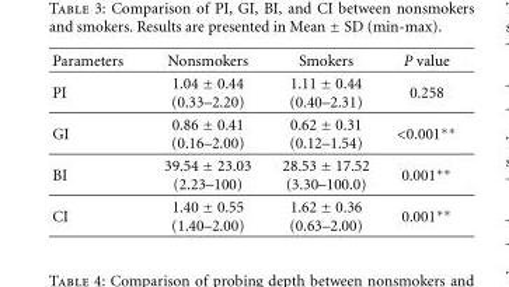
<table><thead><tr><td>Parameters</td><td>Nonsmokers</td><td>Smokers</td><td>P value</td></tr></thead><tbody><tr><td>PI</td><td>1.04 ± 0.44 (0.33–2.20)</td><td>1.11 ± 0.44 (0.40–2.31)</td><td>0.258</td></tr><tr><td>GI</td><td>0.86 ± 0.41 (0.16–2.00)</td><td>0.62 ± 0.31 (0.12–1.54)</td><td>&lt;0.001∗∗</td></tr><tr><td>BI</td><td>39.54 ± 23.03 (2.23–100)</td><td>28.53 ± 17.52 (3.30–100.0)</td><td>0.001∗∗</td></tr><tr><td>CI</td><td>1.40 ± 0.55 (1.40–2.00)</td><td>1.62 ± 0.36 (0.63–2.00)</td><td>0.001∗∗</td></tr></tbody></table>